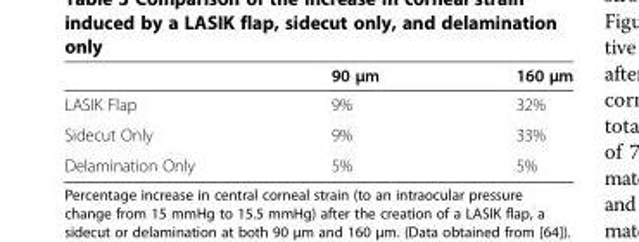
<table><thead><tr><td></td><td>90 μm</td><td>160 μm</td></tr></thead><tbody><tr><td>LASIK Flap</td><td>9%</td><td>32%</td></tr><tr><td>Sidecut Only</td><td>9%</td><td>33%</td></tr><tr><td>Delamination Only</td><td>5%</td><td>5%</td></tr></tbody></table>